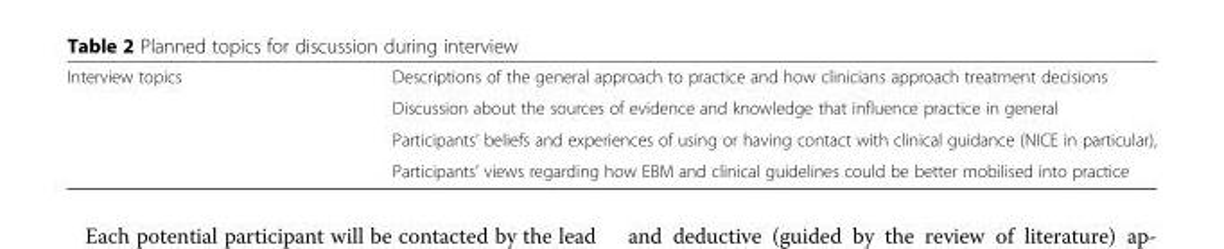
<table><tbody><tr><td rowspan="4">Interview topics</td><td>Descriptions of the general approach to practice and how clinicians approach treatment decisions</td></tr><tr><td>Discussion about the sources of evidence and knowledge that influence practice in general</td></tr><tr><td>Participants’ beliefs and experiences of using or having contact with clinical guidance (NICE in particular),</td></tr><tr><td>Participants’ views regarding how EBM and clinical guidelines could be better mobilised into practice</td></tr></tbody></table>